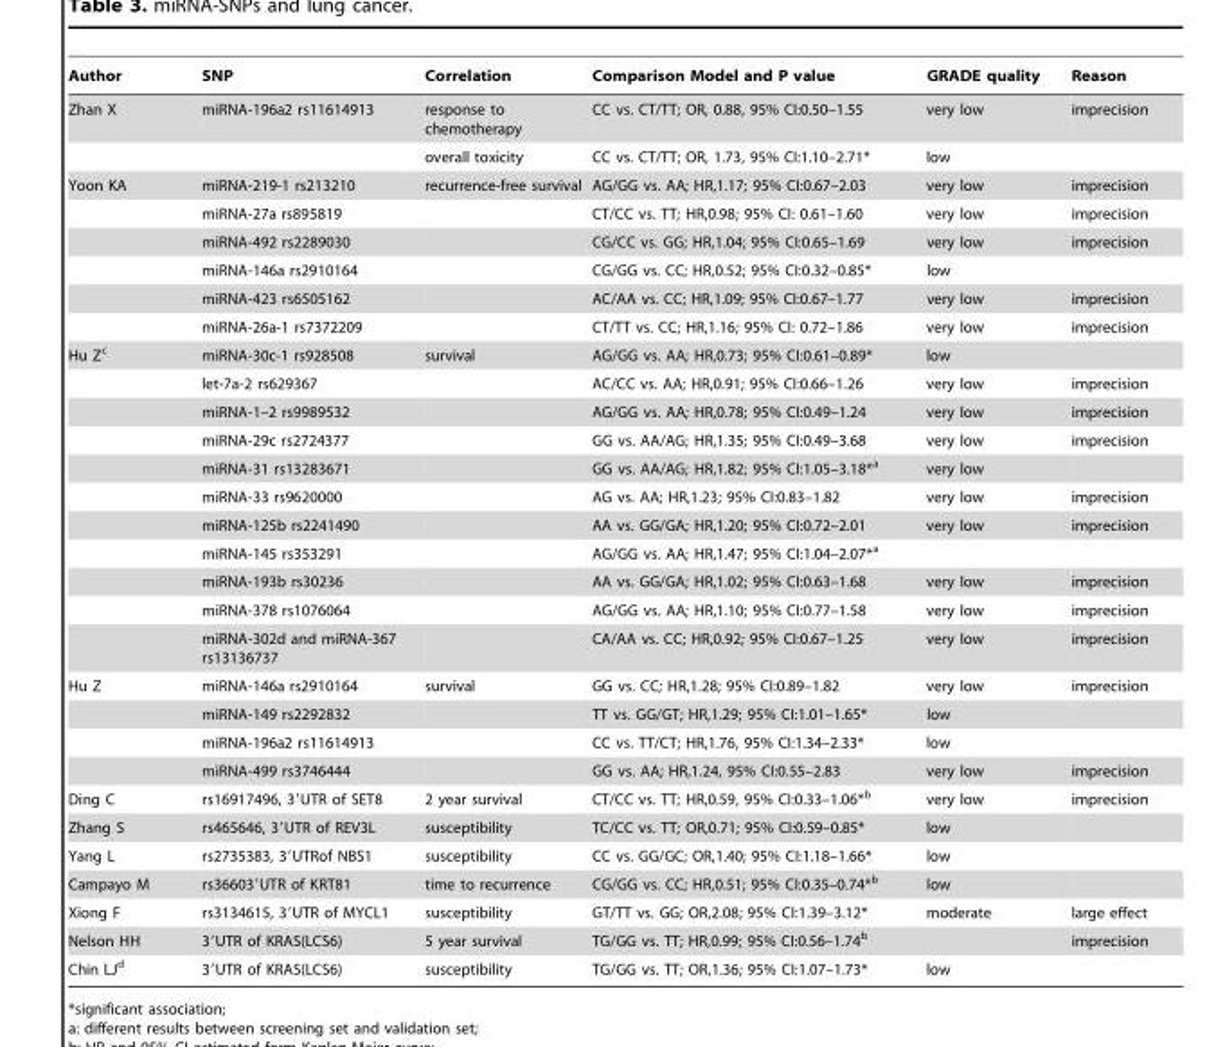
<table><thead><tr><td>Author</td><td>SNP</td><td>Correlation</td><td>Comparison Model and P value</td><td>GRADE quality</td><td>Reason</td></tr></thead><tbody><tr><td rowspan="2">Zhan X</td><td>miRNA-196a2 rs11614913</td><td>response to chemotherapy</td><td>CC vs. CT/TT; OR, 0.88, 95% CI:0.50–1.55</td><td>very low</td><td>imprecision</td></tr><tr><td></td><td>overall toxicity</td><td>CC vs. CT/TT; OR, 1.73, 95% CI:1.10–2.71*</td><td>low</td><td></td></tr><tr><td rowspan="6">Yoon KA</td><td>miRNA-219-1 rs213210</td><td>recurrence-free survival</td><td>AG/GG vs. AA; HR,1.17; 95% CI:0.67–2.03</td><td>very low</td><td>imprecision</td></tr><tr><td>miRNA-27a rs895819</td><td></td><td>CT/CC vs. TT; HR,0.98; 95% CI: 0.61–1.60</td><td>very low</td><td>imprecision</td></tr><tr><td>miRNA-492 rs2289030</td><td></td><td>CG/CC vs. GG; HR,1.04; 95% CI:0.65–1.69</td><td>very low</td><td>imprecision</td></tr><tr><td>miRNA-146a rs2910164</td><td></td><td>CG/GG vs. CC; HR,0.52; 95% CI:0.32–0.85*</td><td>low</td><td></td></tr><tr><td>miRNA-423 rs6505162</td><td></td><td>AC/AA vs. CC; HR,1.09; 95% CI:0.67–1.77</td><td>very low</td><td>imprecision</td></tr><tr><td>miRNA-26a-1 rs7372209</td><td></td><td>CT/TT vs. CC; HR,1.16; 95% CI: 0.72–1.86</td><td>very low</td><td>imprecision</td></tr><tr><td rowspan="11">Hu Z<sup>c</sup></td><td>miRNA-30c-1 rs928508</td><td>survival</td><td>AG/GG vs. AA; HR,0.73; 95% CI:0.61–0.89*</td><td>low</td><td></td></tr><tr><td>let-7a-2 rs629367</td><td></td><td>AC/CC vs. AA; HR,0.91; 95% CI:0.66–1.26</td><td>very low</td><td>imprecision</td></tr><tr><td>miRNA-1–2 rs9989532</td><td></td><td>AG/GG vs. AA; HR,0.78; 95% CI:0.49–1.24</td><td>very low</td><td>imprecision</td></tr><tr><td>miRNA-29c rs2724377</td><td></td><td>GG vs. AA/AG; HR,1.35; 95% CI:0.49–3.68</td><td>very low</td><td>imprecision</td></tr><tr><td>miRNA-31 rs13283671</td><td></td><td>GG vs. AA/AG; HR,1.82; 95% CI:1.05–3.18*<sup>a</sup></td><td>very low</td><td></td></tr><tr><td>miRNA-33 rs9620000</td><td></td><td>AG vs. AA; HR,1.23; 95% CI:0.83–1.82</td><td>very low</td><td>imprecision</td></tr><tr><td>miRNA-125b rs2241490</td><td></td><td>AA vs. GG/GA; HR,1.20; 95% CI:0.72–2.01</td><td>very low</td><td>imprecision</td></tr><tr><td>miRNA-145 rs353291</td><td></td><td>AG/GG vs. AA; HR,1.47; 95% CI:1.04–2.07*<sup>a</sup></td><td></td><td></td></tr><tr><td>miRNA-193b rs30236</td><td></td><td>AA vs. GG/GA; HR,1.02; 95% CI:0.63–1.68</td><td>very low</td><td>imprecision</td></tr><tr><td>miRNA-378 rs1076064</td><td></td><td>AG/GG vs. AA; HR,1.10; 95% CI:0.77–1.58</td><td>very low</td><td>imprecision</td></tr><tr><td>miRNA-302d and miRNA-367 rs13136737</td><td></td><td>CA/AA vs. CC; HR,0.92; 95% CI:0.67–1.25</td><td>very low</td><td>imprecision</td></tr><tr><td rowspan="4">Hu Z</td><td>miRNA-146a rs2910164</td><td>survival</td><td>GG vs. CC; HR,1.28; 95% CI:0.89–1.82</td><td>very low</td><td>imprecision</td></tr><tr><td>miRNA-149 rs2292832</td><td></td><td>TT vs. GG/GT; HR,1.29; 95% CI:1.01–1.65*</td><td>low</td><td></td></tr><tr><td>miRNA-196a2 rs11614913</td><td></td><td>CC vs. TT/CT; HR,1.76, 95% CI:1.34–2.33*</td><td>low</td><td></td></tr><tr><td>miRNA-499 rs3746444</td><td></td><td>GG vs. AA; HR,1.24, 95% CI:0.55–2.83</td><td>very low</td><td>imprecision</td></tr><tr><td>Ding C</td><td>rs16917496, 3′UTR of SET8</td><td>2 year survival</td><td>CT/CC vs. TT; HR,0.59, 95% CI:0.33–1.06*<sup>b</sup></td><td>very low</td><td>imprecision</td></tr><tr><td>Zhang S</td><td>rs465646, 3′UTR of REV3L</td><td>susceptibility</td><td>TC/CC vs. TT; OR,0.71; 95% CI:0.59–0.85*</td><td>low</td><td></td></tr><tr><td>Yang L</td><td>rs2735383, 3′UTRof NBS1</td><td>susceptibility</td><td>CC vs. GG/GC; OR,1.40; 95% CI:1.18–1.66*</td><td>low</td><td></td></tr><tr><td>Campayo M</td><td>rs36603′UTR of KRT81</td><td>time to recurrence</td><td>CG/GG vs. CC; HR,0.51; 95% CI:0.35–0.74*<sup>b</sup></td><td>low</td><td></td></tr><tr><td>Xiong F</td><td>rs3134615, 3′UTR of MYCL1</td><td>susceptibility</td><td>GT/TT vs. GG; OR,2.08; 95% CI:1.39–3.12*</td><td>moderate</td><td>large effect</td></tr><tr><td>Nelson HH</td><td>3′UTR of KRAS(LCS6)</td><td>5 year survival</td><td>TG/GG vs. TT; HR,0.99; 95% CI:0.56–1.74<sup>b</sup></td><td></td><td>imprecision</td></tr><tr><td>Chin LJ<sup>d</sup></td><td>3′UTR of KRAS(LCS6)</td><td>susceptibility</td><td>TG/GG vs. TT; OR,1.36; 95% CI:1.07–1.73*</td><td>low</td><td></td></tr></tbody></table>